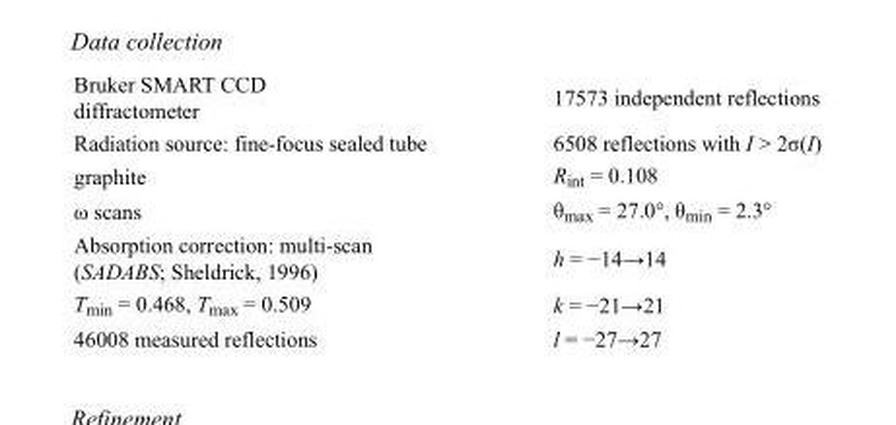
<table><tbody><tr><td>Bruker SMART CCD diffractometer</td><td>17573 independent reflections</td></tr><tr><td>Radiation source: fine-focus sealed tube</td><td>6508 reflections with I &gt; 2σ(I)</td></tr><tr><td>graphite</td><td>R<sub>int</sub> = 0.108</td></tr><tr><td>ω scans</td><td>θ<sub>max</sub> = 27.0°, θ<sub>min</sub> = 2.3°</td></tr><tr><td>Absorption correction: multi-scan (SADABS; Sheldrick, 1996)</td><td>h = −14→14</td></tr><tr><td>T<sub>min</sub> = 0.468, T<sub>max</sub> = 0.509</td><td>k = −21→21</td></tr><tr><td>46008 measured reflections</td><td>l = −27→27</td></tr></tbody></table>